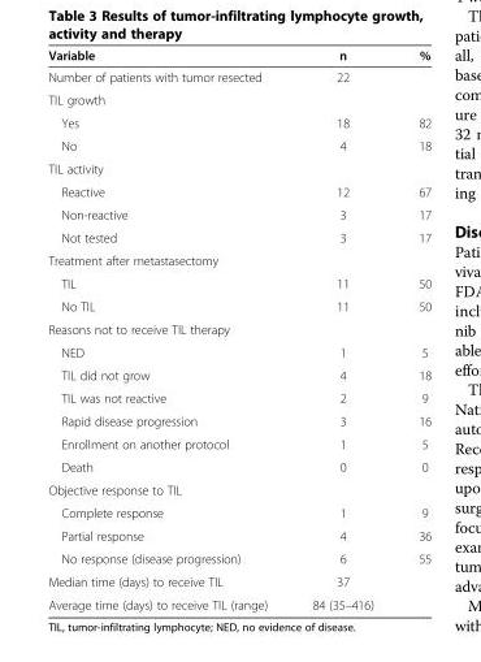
<table><thead><tr><td>Variable</td><td>n</td><td>%</td></tr></thead><tbody><tr><td>Number of patients with tumor resected</td><td>22</td><td></td></tr><tr><td colspan="3">TIL growth</td></tr><tr><td>Yes</td><td>18</td><td>82</td></tr><tr><td>No</td><td>4</td><td>18</td></tr><tr><td colspan="3">TIL activity</td></tr><tr><td>Reactive</td><td>12</td><td>67</td></tr><tr><td>Non-reactive</td><td>3</td><td>17</td></tr><tr><td>Not tested</td><td>3</td><td>17</td></tr><tr><td colspan="3">Treatment after metastasectomy</td></tr><tr><td>TIL</td><td>11</td><td>50</td></tr><tr><td>No TIL</td><td>11</td><td>50</td></tr><tr><td colspan="3">Reasons not to receive TIL therapy</td></tr><tr><td>NED</td><td>1</td><td>5</td></tr><tr><td>TIL did not grow</td><td>4</td><td>18</td></tr><tr><td>TIL was not reactive</td><td>2</td><td>9</td></tr><tr><td>Rapid disease progression</td><td>3</td><td>16</td></tr><tr><td>Enrollment on another protocol</td><td>1</td><td>5</td></tr><tr><td>Death</td><td>0</td><td>0</td></tr><tr><td colspan="3">Objective response to TIL</td></tr><tr><td>Complete response</td><td>1</td><td>9</td></tr><tr><td>Partial response</td><td>4</td><td>36</td></tr><tr><td>No response (disease progression)</td><td>6</td><td>55</td></tr><tr><td>Median time (days) to receive TIL</td><td>37</td><td></td></tr><tr><td>Average time (days) to receive TIL (range)</td><td>84 (35–416)</td><td></td></tr></tbody></table>